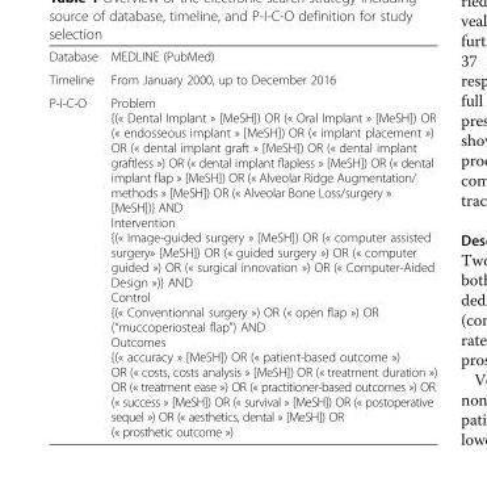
<table><tbody><tr><td>Database</td><td>MEDLINE (PubMed)</td></tr><tr><td>Timeline</td><td>From January 2000, up to December 2016</td></tr><tr><td>P-I-C-O</td><td>Problem {(« Dental Implant » [MeSH]) OR (« Oral Implant » [MeSH]) OR (« endosseous implant » [MeSH]) OR (« implant placement ») OR (« dental implant graft » [MeSH]) OR (« dental implant graftless ») OR (« dental implant flapless » [MeSH]) OR (« dental implant flap » [MeSH]) OR (« Alveolar Ridge Augmentation/ methods » [MeSH]) OR (« Alveolar Bone Loss/surgery » [MeSH])} AND Intervention {(« Image-guided surgery » [MeSH]) OR (« computer assisted surgery» [MeSH]) OR (« guided surgery ») OR (« computer guided ») OR (« surgical innovation ») OR (« Computer-Aided Design »)} AND Control {(« Conventionnal surgery ») OR (« open flap ») OR (“muccoperiosteal flap”) AND Outcomes {(« accuracy » [MeSH]) OR (« patient-based outcome ») OR (« costs, costs analysis » [MeSH]) OR (« treatment duration ») OR (« treatment ease ») OR (« practitioner-based outcomes ») OR (« success » [MeSH]) OR (« survival » [MeSH]) OR (« postoperative sequel ») OR (« aesthetics, dental » [MeSH]) OR (« prosthetic outcome »)</td></tr></tbody></table>